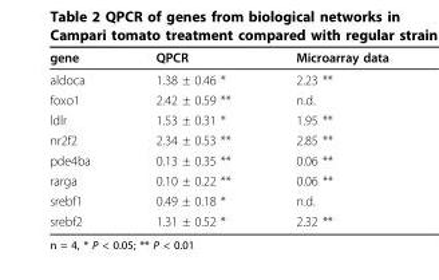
<table><thead><tr><td>gene</td><td>QPCR</td><td>Microarray data</td></tr></thead><tbody><tr><td>aldoca</td><td>1.38 ± 0.46 *</td><td>2.23 **</td></tr><tr><td>foxo1</td><td>2.42 ± 0.59 **</td><td>n.d.</td></tr><tr><td>ldlr</td><td>1.53 ± 0.31 *</td><td>1.95 **</td></tr><tr><td>nr2f2</td><td>2.34 ± 0.53 **</td><td>2.85 **</td></tr><tr><td>pde4ba</td><td>0.13 ± 0.35 **</td><td>0.06 **</td></tr><tr><td>rarga</td><td>0.10 ± 0.22 **</td><td>0.06 **</td></tr><tr><td>srebf1</td><td>0.49 ± 0.18 *</td><td>n.d.</td></tr><tr><td>srebf2</td><td>1.31 ± 0.52 *</td><td>2.32 **</td></tr></tbody></table>